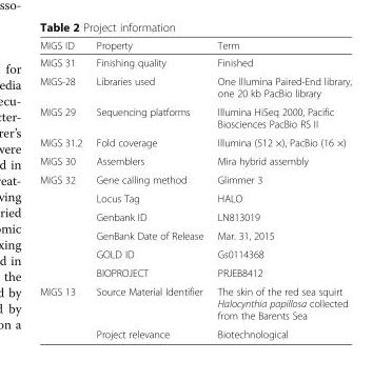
<table><thead><tr><td>MIGS ID</td><td>Property</td><td>Term</td></tr></thead><tbody><tr><td>MIGS 31</td><td>Finishing quality</td><td>Finished</td></tr><tr><td>MIGS-28</td><td>Libraries used</td><td>One Illumina Paired-End library, one 20 kb PacBio library</td></tr><tr><td>MIGS 29</td><td>Sequencing platforms</td><td>Illumina HiSeq 2000, Pacific Biosciences PacBio RS II</td></tr><tr><td>MIGS 31.2</td><td>Fold coverage</td><td>Illumina (512 ×), PacBio (16 ×)</td></tr><tr><td>MIGS 30</td><td>Assemblers</td><td>Mira hybrid assembly</td></tr><tr><td rowspan="6">MIGS 32</td><td>Gene calling method</td><td>Glimmer 3</td></tr><tr><td>Locus Tag</td><td>HALO</td></tr><tr><td>Genbank ID</td><td>LN813019</td></tr><tr><td>GenBank Date of Release</td><td>Mar. 31, 2015</td></tr><tr><td>GOLD ID</td><td>Gs0114368</td></tr><tr><td>BIOPROJECT</td><td>PRJEB8412</td></tr><tr><td rowspan="2">MIGS 13</td><td>Source Material Identifier</td><td>The skin of the red sea squirt Halocynthia papillosa collected from the Barents Sea</td></tr><tr><td>Project relevance</td><td>Biotechnological</td></tr></tbody></table>